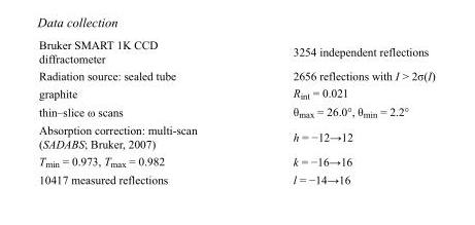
<table><tbody><tr><td>Bruker SMART 1K CCD diffractometer</td><td>3254 independent reflections</td></tr><tr><td>Radiation source: sealed tube</td><td>2656 reflections with I &gt; 2σ(I)</td></tr><tr><td>graphite</td><td>R<sub>int</sub> = 0.021</td></tr><tr><td>thin–slice ω scans</td><td>θ<sub>max</sub> = 26.0°, θ<sub>min</sub> = 2.2°</td></tr><tr><td>Absorption correction: multi-scan (SADABS; Bruker, 2007)</td><td>h = −12→12</td></tr><tr><td>T<sub>min</sub> = 0.973, T<sub>max</sub> = 0.982</td><td>k = −16→16</td></tr><tr><td>10417 measured reflections</td><td>l = −14→16</td></tr></tbody></table>